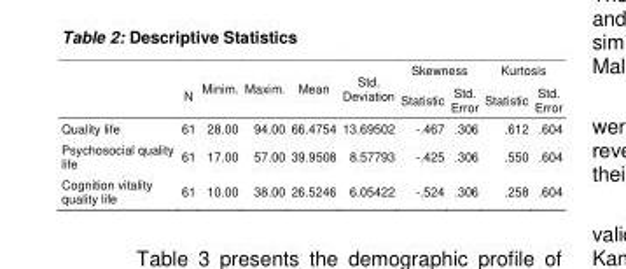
<table><thead><tr><td rowspan="2"></td><td rowspan="2">N</td><td rowspan="2">Minim.</td><td rowspan="2">Maxim.</td><td rowspan="2">Mean</td><td rowspan="2">Std. Deviation</td><td colspan="2">Skewness</td><td colspan="2">Kurtosis</td></tr><tr><td>Statistic</td><td>Std. Error</td><td>Statistic</td><td>Std. Error</td></tr></thead><tbody><tr><td>Quality life</td><td>61</td><td>28.00</td><td>94.00</td><td>66.4754</td><td>13.69502</td><td>-.467</td><td>.306</td><td>.612</td><td>.604</td></tr><tr><td>Psychosocial quality life</td><td>61</td><td>17.00</td><td>57.00</td><td>39.9508</td><td>8.57793</td><td>-.425</td><td>.306</td><td>.550</td><td>.604</td></tr><tr><td>Cognition vitality quality life</td><td>61</td><td>10.00</td><td>38.00</td><td>26.5246</td><td>6.05422</td><td>-.524</td><td>.306</td><td>.258</td><td>.604</td></tr></tbody></table>